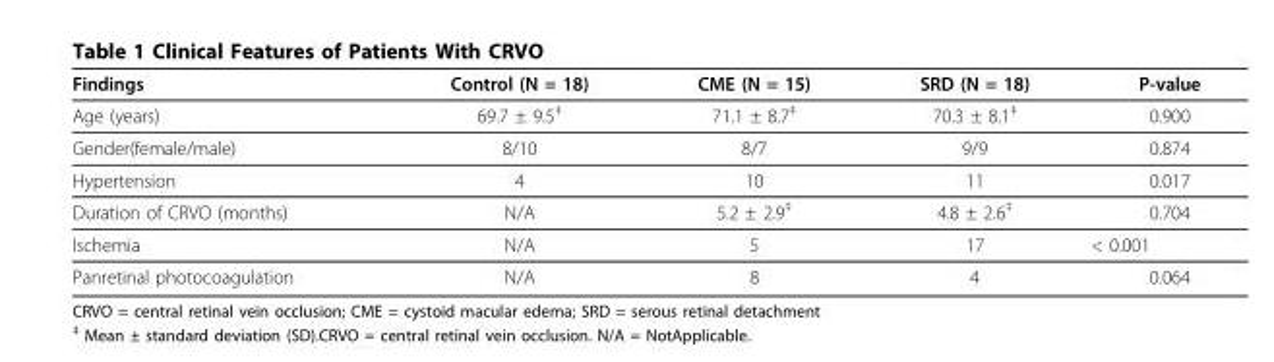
<table><thead><tr><td>Findings</td><td>Control (N = 18)</td><td>CME (N = 15)</td><td>SRD (N = 18)</td><td>P-value</td></tr></thead><tbody><tr><td>Age (years)</td><td>69.7 ± 9.5<sup>‡</sup></td><td>71.1 ± 8.7<sup>‡</sup></td><td>70.3 ± 8.1<sup>‡</sup></td><td>0.900</td></tr><tr><td>Gender(female/male)</td><td>8/10</td><td>8/7</td><td>9/9</td><td>0.874</td></tr><tr><td>Hypertension</td><td>4</td><td>10</td><td>11</td><td>0.017</td></tr><tr><td>Duration of CRVO (months)</td><td>N/A</td><td>5.2 ± 2.9<sup>‡</sup></td><td>4.8 ± 2.6<sup>‡</sup></td><td>0.704</td></tr><tr><td>Ischemia</td><td>N/A</td><td>5</td><td>17</td><td>&lt; 0.001</td></tr><tr><td>Panretinal photocoagulation</td><td>N/A</td><td>8</td><td>4</td><td>0.064</td></tr></tbody></table>